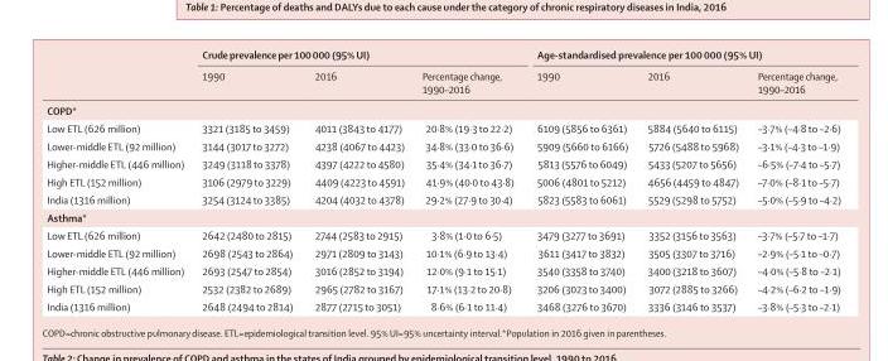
<table><thead><tr><td rowspan="2"></td><td colspan="3">Crude prevalence per 100 000 (95% UI)</td><td colspan="3">Age-standardised prevalence per 100 000 (95% UI)</td></tr><tr><td>1990</td><td>2016</td><td>Percentage change, 1990–2016</td><td>1990</td><td>2016</td><td>Percentage change, 1990–2016</td></tr></thead><tbody><tr><td colspan="7">COPD*</td></tr><tr><td>Low ETL (626 million)</td><td>3321 (3185 to 3459)</td><td>4011 (3843 to 4177)</td><td>20·8% (19·3 to 22·2)</td><td>6109 (5856 to 6361)</td><td>5884 (5640 to 6115)</td><td>–3·7% (–4·8 to –2·6)</td></tr><tr><td>Lower-middle ETL (92 million)</td><td>3144 (3017 to 3272)</td><td>4238 (4067 to 4423)</td><td>34·8% (33·0 to 36·6)</td><td>5909 (5660 to 6166)</td><td>5726 (5488 to 5968)</td><td>–3·1% (–4·3 to –1·9)</td></tr><tr><td>Higher-middle ETL (446 million)</td><td>3249 (3118 to 3378)</td><td>4397 (4222 to 4580)</td><td>35·4% (34·1 to 36·7)</td><td>5813 (5576 to 6049)</td><td>5433 (5207 to 5656)</td><td>–6·5% (–7·4 to –5·7)</td></tr><tr><td>High ETL (152 million)</td><td>3106 (2979 to 3229)</td><td>4409 (4223 to 4591)</td><td>41·9% (40·0 to 43·8)</td><td>5006 (4801 to 5212)</td><td>4656 (4459 to 4847)</td><td>–7·0% (–8·1 to –5·7)</td></tr><tr><td>India (1316 million)</td><td>3254 (3124 to 3385)</td><td>4204 (4032 to 4378)</td><td>29·2% (27·9 to 30·4)</td><td>5823 (5583 to 6061)</td><td>5529 (5298 to 5752)</td><td>–5·0% (–5·9 to –4·2)</td></tr><tr><td colspan="7">Asthma*</td></tr><tr><td>Low ETL (626 million)</td><td>2642 (2480 to 2815)</td><td>2744 (2583 to 2915)</td><td>3·8% (1·0 to 6·5)</td><td>3479 (3277 to 3691)</td><td>3352 (3156 to 3563)</td><td>–3·7% (–5·7 to –1·7)</td></tr><tr><td>Lower-middle ETL (92 million)</td><td>2698 (2543 to 2864)</td><td>2971 (2809 to 3143)</td><td>10·1% (6·9 to 13·4)</td><td>3611 (3417 to 3832)</td><td>3505 (3307 to 3716)</td><td>–2·9% (–5·1 to –0·7)</td></tr><tr><td>Higher-middle ETL (446 million)</td><td>2693 (2547 to 2854)</td><td>3016 (2852 to 3194)</td><td>12·0% (9·1 to 15·1)</td><td>3540 (3358 to 3740)</td><td>3400 (3218 to 3607)</td><td>–4·0% (–5·8 to –2·1)</td></tr><tr><td>High ETL (152 million)</td><td>2532 (2382 to 2689)</td><td>2965 (2782 to 3167)</td><td>17·1% (13·2 to 20·8)</td><td>3206 (3023 to 3400)</td><td>3072 (2885 to 3266)</td><td>–4·2% (–6·2 to –1·9)</td></tr><tr><td>India (1316 million)</td><td>2648 (2494 to 2814)</td><td>2877 (2715 to 3051)</td><td>8·6% (6·1 to 11·4)</td><td>3468 (3276 to 3670)</td><td>3336 (3146 to 3537)</td><td>–3·8% (–5·3 to –2·1)</td></tr></tbody></table>